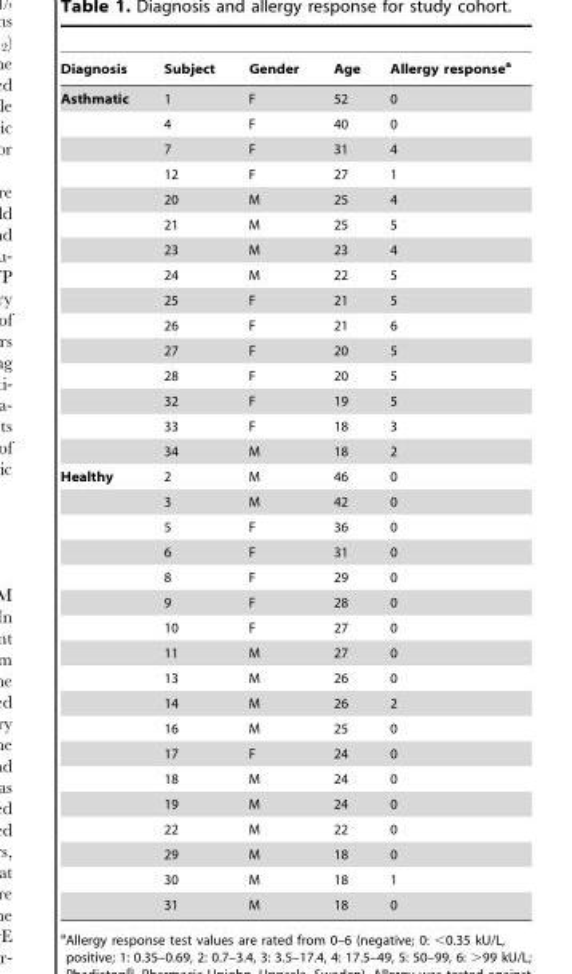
<table><thead><tr><td>Diagnosis</td><td>Subject</td><td>Gender</td><td>Age</td><td>Allergy response<sup>a</sup></td></tr></thead><tbody><tr><td rowspan="15">Asthmatic</td><td>1</td><td>F</td><td>52</td><td>0</td></tr><tr><td>4</td><td>F</td><td>40</td><td>0</td></tr><tr><td>7</td><td>F</td><td>31</td><td>4</td></tr><tr><td>12</td><td>F</td><td>27</td><td>1</td></tr><tr><td>20</td><td>M</td><td>25</td><td>4</td></tr><tr><td>21</td><td>M</td><td>25</td><td>5</td></tr><tr><td>23</td><td>M</td><td>23</td><td>4</td></tr><tr><td>24</td><td>M</td><td>22</td><td>5</td></tr><tr><td>25</td><td>F</td><td>21</td><td>5</td></tr><tr><td>26</td><td>F</td><td>21</td><td>6</td></tr><tr><td>27</td><td>F</td><td>20</td><td>5</td></tr><tr><td>28</td><td>F</td><td>20</td><td>5</td></tr><tr><td>32</td><td>F</td><td>19</td><td>5</td></tr><tr><td>33</td><td>F</td><td>18</td><td>3</td></tr><tr><td>34</td><td>M</td><td>18</td><td>2</td></tr><tr><td rowspan="18">Healthy</td><td>2</td><td>M</td><td>46</td><td>0</td></tr><tr><td>3</td><td>M</td><td>42</td><td>0</td></tr><tr><td>5</td><td>F</td><td>36</td><td>0</td></tr><tr><td>6</td><td>F</td><td>31</td><td>0</td></tr><tr><td>8</td><td>F</td><td>29</td><td>0</td></tr><tr><td>9</td><td>F</td><td>28</td><td>0</td></tr><tr><td>10</td><td>F</td><td>27</td><td>0</td></tr><tr><td>11</td><td>M</td><td>27</td><td>0</td></tr><tr><td>13</td><td>M</td><td>26</td><td>0</td></tr><tr><td>14</td><td>M</td><td>26</td><td>2</td></tr><tr><td>16</td><td>M</td><td>25</td><td>0</td></tr><tr><td>17</td><td>F</td><td>24</td><td>0</td></tr><tr><td>18</td><td>M</td><td>24</td><td>0</td></tr><tr><td>19</td><td>M</td><td>24</td><td>0</td></tr><tr><td>22</td><td>M</td><td>22</td><td>0</td></tr><tr><td>29</td><td>M</td><td>18</td><td>0</td></tr><tr><td>30</td><td>M</td><td>18</td><td>1</td></tr><tr><td>31</td><td>M</td><td>18</td><td>0</td></tr></tbody></table>